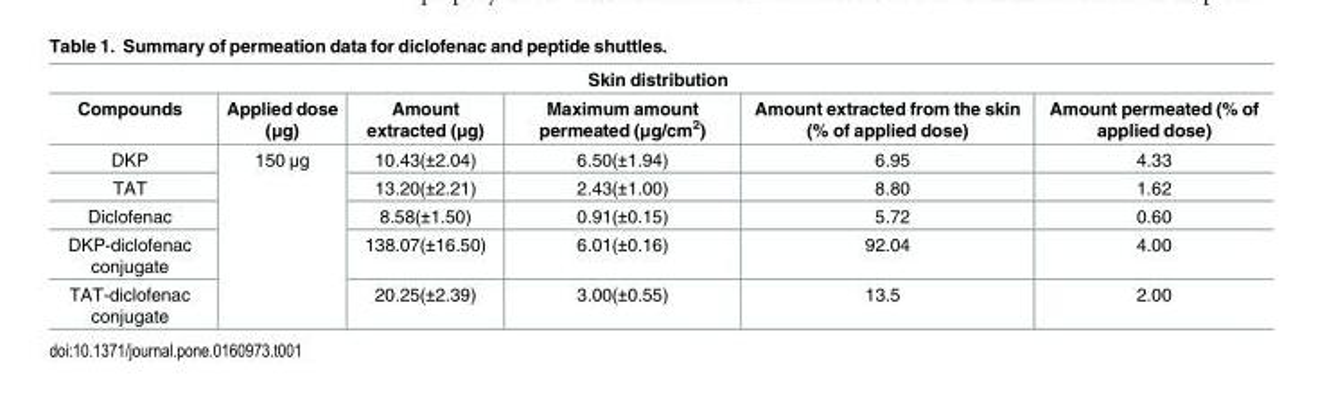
<table><thead><tr><td colspan="6">Skin distribution</td></tr><tr><td>Compounds</td><td>Applied dose (μg)</td><td>Amount extracted (μg)</td><td>Maximum amount permeated (μg/cm<sup>2</sup>)</td><td>Amount extracted from the skin (% of applied dose)</td><td>Amount permeated (% of applied dose)</td></tr></thead><tbody><tr><td>DKP</td><td rowspan="5">150 μg</td><td>10.43(±2.04)</td><td>6.50(±1.94)</td><td>6.95</td><td>4.33</td></tr><tr><td>TAT</td><td>13.20(±2.21)</td><td>2.43(±1.00)</td><td>8.80</td><td>1.62</td></tr><tr><td>Diclofenac</td><td>8.58(±1.50)</td><td>0.91(±0.15)</td><td>5.72</td><td>0.60</td></tr><tr><td>DKP-diclofenac conjugate</td><td>138.07(±16.50)</td><td>6.01(±0.16)</td><td>92.04</td><td>4.00</td></tr><tr><td>TAT-diclofenac conjugate</td><td>20.25(±2.39)</td><td>3.00(±0.55)</td><td>13.5</td><td>2.00</td></tr></tbody></table>